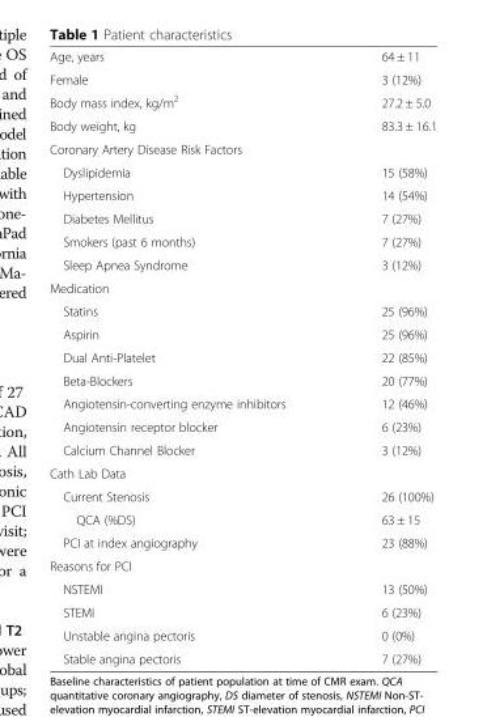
<table><tbody><tr><td>Age, years</td><td>64 ± 11</td></tr><tr><td>Female</td><td>3 (12%)</td></tr><tr><td>Body mass index, kg/m<sup>2</sup></td><td>27.2 ± 5.0</td></tr><tr><td>Body weight, kg</td><td>83.3 ± 16.1</td></tr><tr><td colspan="2">Coronary Artery Disease Risk Factors</td></tr><tr><td>Dyslipidemia</td><td>15 (58%)</td></tr><tr><td>Hypertension</td><td>14 (54%)</td></tr><tr><td>Diabetes Mellitus</td><td>7 (27%)</td></tr><tr><td>Smokers (past 6 months)</td><td>7 (27%)</td></tr><tr><td>Sleep Apnea Syndrome</td><td>3 (12%)</td></tr><tr><td colspan="2">Medication</td></tr><tr><td>Statins</td><td>25 (96%)</td></tr><tr><td>Aspirin</td><td>25 (96%)</td></tr><tr><td>Dual Anti-Platelet</td><td>22 (85%)</td></tr><tr><td>Beta-Blockers</td><td>20 (77%)</td></tr><tr><td>Angiotensin-converting enzyme inhibitors</td><td>12 (46%)</td></tr><tr><td>Angiotensin receptor blocker</td><td>6 (23%)</td></tr><tr><td>Calcium Channel Blocker</td><td>3 (12%)</td></tr><tr><td colspan="2">Cath Lab Data</td></tr><tr><td>Current Stenosis</td><td>26 (100%)</td></tr><tr><td>QCA (%DS)</td><td>63 ± 15</td></tr><tr><td>PCI at index angiography</td><td>23 (88%)</td></tr><tr><td colspan="2">Reasons for PCI</td></tr><tr><td>NSTEMI</td><td>13 (50%)</td></tr><tr><td>STEMI</td><td>6 (23%)</td></tr><tr><td>Unstable angina pectoris</td><td>0 (0%)</td></tr><tr><td>Stable angina pectoris</td><td>7 (27%)</td></tr></tbody></table>